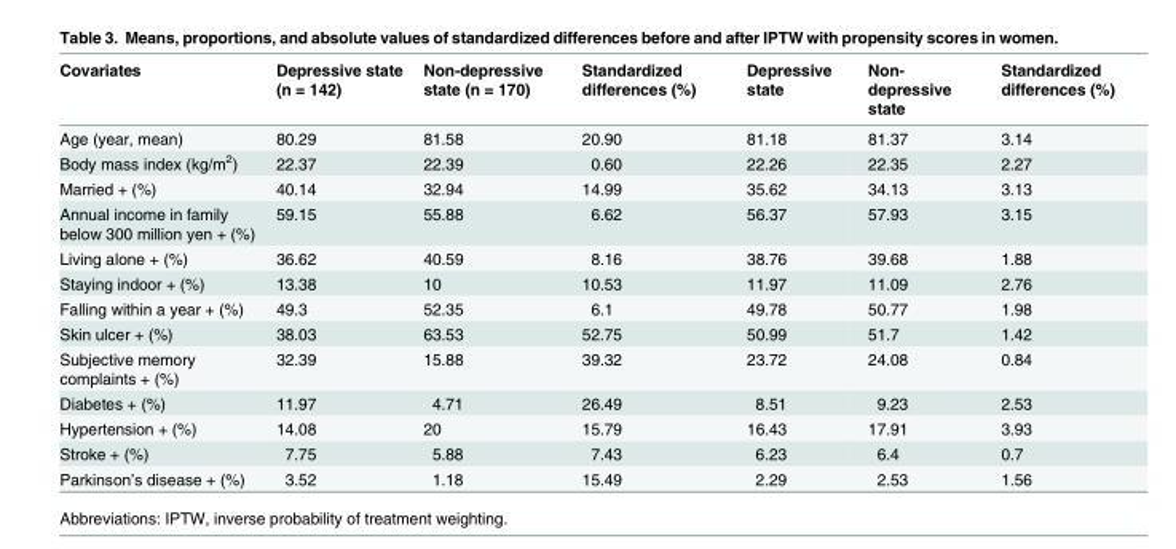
<table><thead><tr><td>Covariates</td><td>Depressive state (n = 142)</td><td>Non-depressive state (n = 170)</td><td>Standardized differences (%)</td><td>Depressive state</td><td>Non- depressive state</td><td>Standardized differences (%)</td></tr></thead><tbody><tr><td>Age (year, mean)</td><td>80.29</td><td>81.58</td><td>20.90</td><td>81.18</td><td>81.37</td><td>3.14</td></tr><tr><td>Body mass index (kg/m<sup>2</sup>)</td><td>22.37</td><td>22.39</td><td>0.60</td><td>22.26</td><td>22.35</td><td>2.27</td></tr><tr><td>Married + (%)</td><td>40.14</td><td>32.94</td><td>14.99</td><td>35.62</td><td>34.13</td><td>3.13</td></tr><tr><td>Annual income in family below 300 million yen + (%)</td><td>59.15</td><td>55.88</td><td>6.62</td><td>56.37</td><td>57.93</td><td>3.15</td></tr><tr><td>Living alone + (%)</td><td>36.62</td><td>40.59</td><td>8.16</td><td>38.76</td><td>39.68</td><td>1.88</td></tr><tr><td>Staying indoor + (%)</td><td>13.38</td><td>10</td><td>10.53</td><td>11.97</td><td>11.09</td><td>2.76</td></tr><tr><td>Falling within a year + (%)</td><td>49.3</td><td>52.35</td><td>6.1</td><td>49.78</td><td>50.77</td><td>1.98</td></tr><tr><td>Skin ulcer + (%)</td><td>38.03</td><td>63.53</td><td>52.75</td><td>50.99</td><td>51.7</td><td>1.42</td></tr><tr><td>Subjective memory complaints + (%)</td><td>32.39</td><td>15.88</td><td>39.32</td><td>23.72</td><td>24.08</td><td>0.84</td></tr><tr><td>Diabetes + (%)</td><td>11.97</td><td>4.71</td><td>26.49</td><td>8.51</td><td>9.23</td><td>2.53</td></tr><tr><td>Hypertension + (%)</td><td>14.08</td><td>20</td><td>15.79</td><td>16.43</td><td>17.91</td><td>3.93</td></tr><tr><td>Stroke + (%)</td><td>7.75</td><td>5.88</td><td>7.43</td><td>6.23</td><td>6.4</td><td>0.7</td></tr><tr><td>Parkinson’s disease + (%)</td><td>3.52</td><td>1.18</td><td>15.49</td><td>2.29</td><td>2.53</td><td>1.56</td></tr></tbody></table>